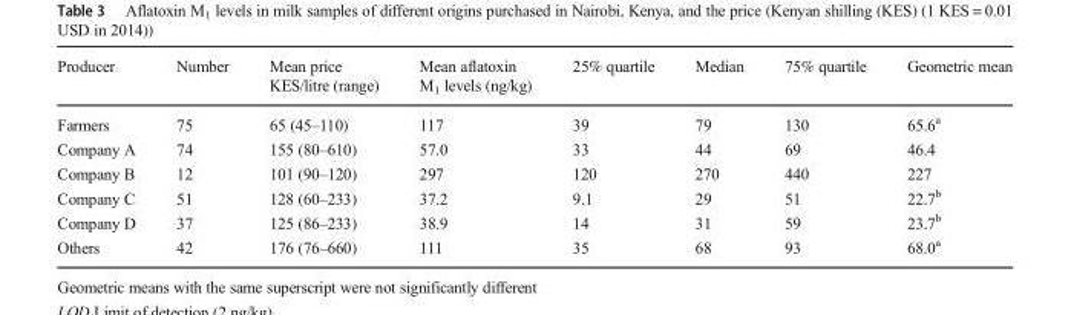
<table><thead><tr><td>Producer</td><td>Number</td><td>Mean price KES/litre (range)</td><td>Mean aflatoxin M<sub>1</sub> levels (ng/kg)</td><td>25% quartile</td><td>Median</td><td>75% quartile</td><td>Geometric mean</td></tr></thead><tbody><tr><td>Farmers</td><td>75</td><td>65 (45–110)</td><td>117</td><td>39</td><td>79</td><td>130</td><td>65.6<sup>a</sup></td></tr><tr><td>Company A</td><td>74</td><td>155 (80–610)</td><td>57.0</td><td>33</td><td>44</td><td>69</td><td>46.4</td></tr><tr><td>Company B</td><td>12</td><td>101 (90–120)</td><td>297</td><td>120</td><td>270</td><td>440</td><td>227</td></tr><tr><td>Company C</td><td>51</td><td>128 (60–233)</td><td>37.2</td><td>9.1</td><td>29</td><td>51</td><td>22.7<sup>b</sup></td></tr><tr><td>Company D</td><td>37</td><td>125 (86–233)</td><td>38.9</td><td>14</td><td>31</td><td>59</td><td>23.7<sup>b</sup></td></tr><tr><td>Others</td><td>42</td><td>176 (76–660)</td><td>111</td><td>35</td><td>68</td><td>93</td><td>68.0<sup>a</sup></td></tr></tbody></table>